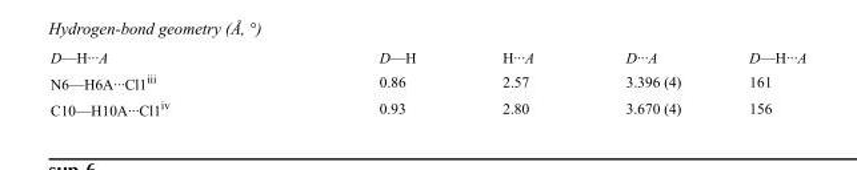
<table><tbody><tr><td>D—H···A</td><td>D—H</td><td>H···A</td><td>D···A</td><td>D—H···A</td></tr><tr><td>N6—H6A···Cl1<sup>iii</sup></td><td>0.86</td><td>2.57</td><td>3.396 (4)</td><td>161</td></tr><tr><td>C10—H10A···Cl1<sup>iv</sup></td><td>0.93</td><td>2.80</td><td>3.670 (4)</td><td>156</td></tr></tbody></table>